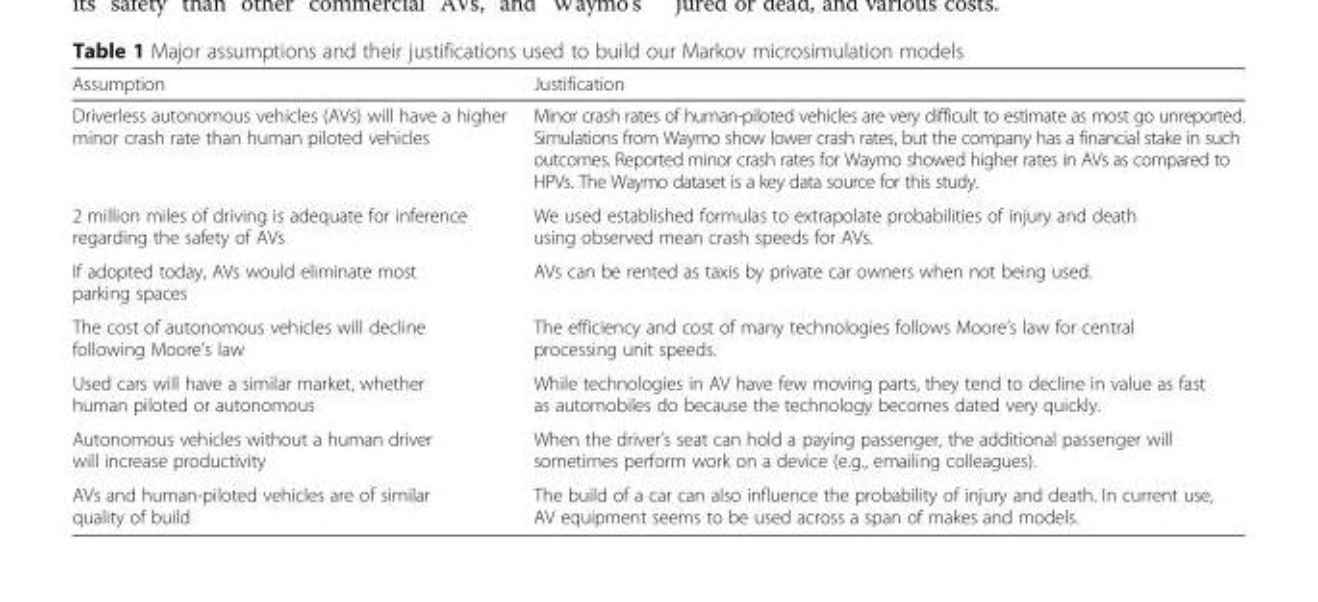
<table><thead><tr><td>Assumption</td><td>Justification</td></tr></thead><tbody><tr><td>Driverless autonomous vehicles (AVs) will have a higher minor crash rate than human piloted vehicles</td><td>Minor crash rates of human-piloted vehicles are very difficult to estimate as most go unreported. Simulations from Waymo show lower crash rates, but the company has a financial stake in such outcomes. Reported minor crash rates for Waymo showed higher rates in AVs as compared to HPVs. The Waymo dataset is a key data source for this study.</td></tr><tr><td>2 million miles of driving is adequate for inference regarding the safety of AVs</td><td>We used established formulas to extrapolate probabilities of injury and death using observed mean crash speeds for AVs.</td></tr><tr><td>If adopted today, AVs would eliminate most parking spaces</td><td>AVs can be rented as taxis by private car owners when not being used.</td></tr><tr><td>The cost of autonomous vehicles will decline following Moore’s law</td><td>The efficiency and cost of many technologies follows Moore’s law for central processing unit speeds.</td></tr><tr><td>Used cars will have a similar market, whether human piloted or autonomous</td><td>While technologies in AV have few moving parts, they tend to decline in value as fast as automobiles do because the technology becomes dated very quickly.</td></tr><tr><td>Autonomous vehicles without a human driver will increase productivity</td><td>When the driver’s seat can hold a paying passenger, the additional passenger will sometimes perform work on a device (e.g., emailing colleagues).</td></tr><tr><td>AVs and human-piloted vehicles are of similar quality of build</td><td>The build of a car can also influence the probability of injury and death. In current use, AV equipment seems to be used across a span of makes and models.</td></tr></tbody></table>